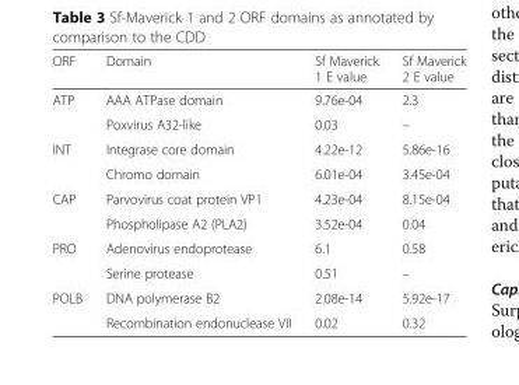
<table><thead><tr><td>ORF</td><td>Domain</td><td>Sf Maverick 1 E value</td><td>Sf Maverick 2 E value</td></tr></thead><tbody><tr><td rowspan="2">ATP</td><td>AAA ATPase domain</td><td>9.76e-04</td><td>2.3</td></tr><tr><td>Poxvirus A32-like</td><td>0.03</td><td>–</td></tr><tr><td rowspan="2">INT</td><td>Integrase core domain</td><td>4.22e-12</td><td>5.86e-16</td></tr><tr><td>Chromo domain</td><td>6.01e-04</td><td>3.45e-04</td></tr><tr><td rowspan="2">CAP</td><td>Parvovirus coat protein VP1</td><td>4.23e-04</td><td>8.15e-04</td></tr><tr><td>Phospholipase A2 (PLA2)</td><td>3.52e-04</td><td>0.04</td></tr><tr><td rowspan="2">PRO</td><td>Adenovirus endoprotease</td><td>6.1</td><td>0.58</td></tr><tr><td>Serine protease</td><td>0.51</td><td>–</td></tr><tr><td rowspan="2">POLB</td><td>DNA polymerase B2</td><td>2.08e-14</td><td>5.92e-17</td></tr><tr><td>Recombination endonuclease VII</td><td>0.02</td><td>0.32</td></tr></tbody></table>